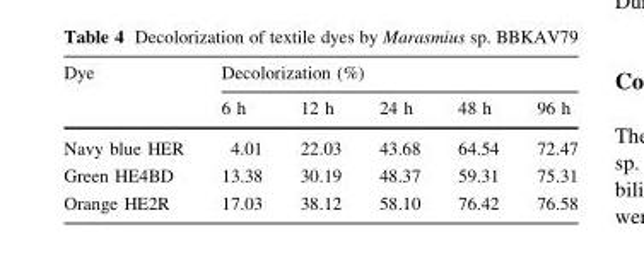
<table><thead><tr><td rowspan="2">Dye</td><td colspan="5">Decolorization (%)</td></tr><tr><td>6 h</td><td>12 h</td><td>24 h</td><td>48 h</td><td>96 h</td></tr></thead><tbody><tr><td>Navy blue HER</td><td>4.01</td><td>22.03</td><td>43.68</td><td>64.54</td><td>72.47</td></tr><tr><td>Green HE4BD</td><td>13.38</td><td>30.19</td><td>48.37</td><td>59.31</td><td>75.31</td></tr><tr><td>Orange HE2R</td><td>17.03</td><td>38.12</td><td>58.10</td><td>76.42</td><td>76.58</td></tr></tbody></table>